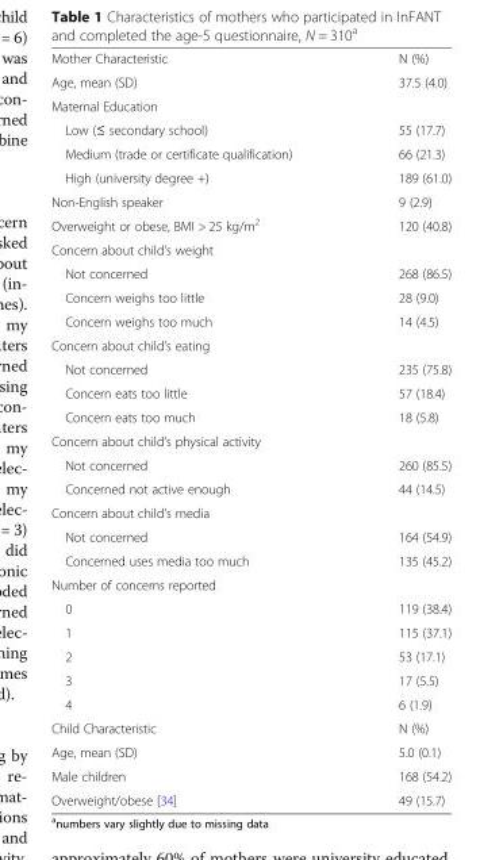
<table><tbody><tr><td>Mother Characteristic</td><td>N (%)</td></tr><tr><td>Age, mean (SD)</td><td>37.5 (4.0)</td></tr><tr><td colspan="2">Maternal Education</td></tr><tr><td>Low (≤ secondary school)</td><td>55 (17.7)</td></tr><tr><td>Medium (trade or certificate qualification)</td><td>66 (21.3)</td></tr><tr><td>High (university degree +)</td><td>189 (61.0)</td></tr><tr><td>Non-English speaker</td><td>9 (2.9)</td></tr><tr><td>Overweight or obese, BMI &gt; 25 kg/m<sup>2</sup></td><td>120 (40.8)</td></tr><tr><td colspan="2">Concern about child’s weight</td></tr><tr><td>Not concerned</td><td>268 (86.5)</td></tr><tr><td>Concern weighs too little</td><td>28 (9.0)</td></tr><tr><td>Concern weighs too much</td><td>14 (4.5)</td></tr><tr><td colspan="2">Concern about child’s eating</td></tr><tr><td>Not concerned</td><td>235 (75.8)</td></tr><tr><td>Concern eats too little</td><td>57 (18.4)</td></tr><tr><td>Concern eats too much</td><td>18 (5.8)</td></tr><tr><td colspan="2">Concern about child’s physical activity</td></tr><tr><td>Not concerned</td><td>260 (85.5)</td></tr><tr><td>Concerned not active enough</td><td>44 (14.5)</td></tr><tr><td colspan="2">Concern about child’s media</td></tr><tr><td>Not concerned</td><td>164 (54.9)</td></tr><tr><td>Concerned uses media too much</td><td>135 (45.2)</td></tr><tr><td colspan="2">Number of concerns reported</td></tr><tr><td>0</td><td>119 (38.4)</td></tr><tr><td>1</td><td>115 (37.1)</td></tr><tr><td>2</td><td>53 (17.1)</td></tr><tr><td>3</td><td>17 (5.5)</td></tr><tr><td>4</td><td>6 (1.9)</td></tr><tr><td>Child Characteristic</td><td>N (%)</td></tr><tr><td>Age, mean (SD)</td><td>5.0 (0.1)</td></tr><tr><td>Male children</td><td>168 (54.2)</td></tr><tr><td>Overweight/obese [34]</td><td>49 (15.7)</td></tr></tbody></table>